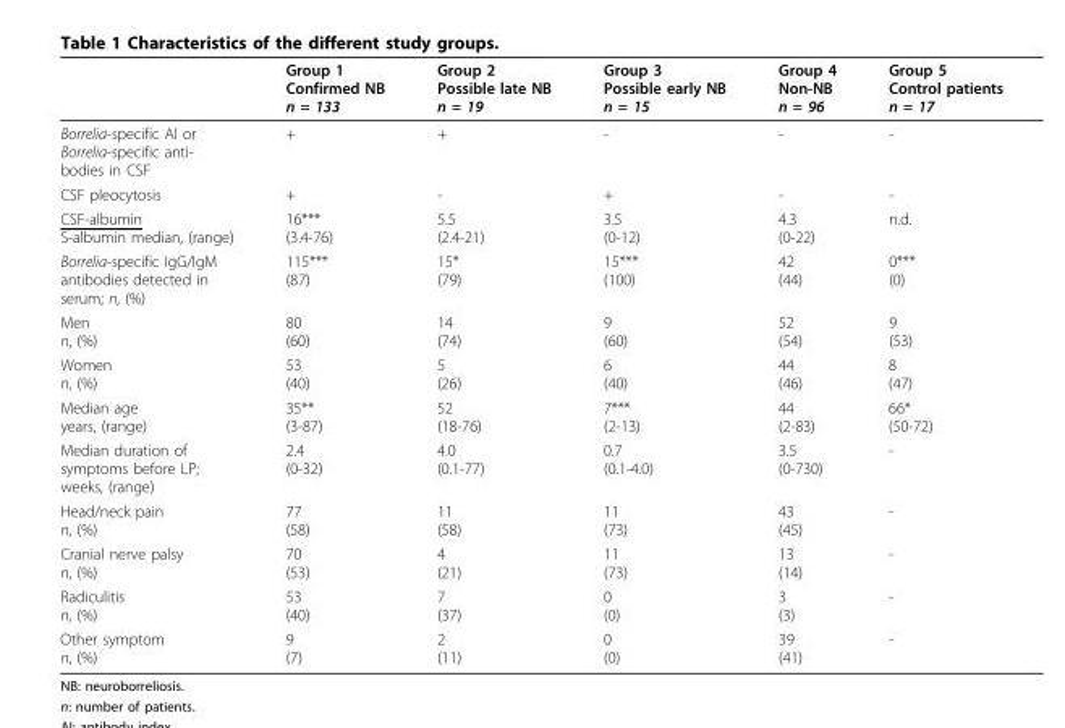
<table><thead><tr><td></td><td>Group 1 Confirmed NB n = 133</td><td>Group 2 Possible late NB n = 19</td><td>Group 3 Possible early NB n = 15</td><td>Group 4 Non-NB n = 96</td><td>Group 5 Control patients n = 17</td></tr></thead><tbody><tr><td>Borrelia-specific AI or Borrelia-specific anti- bodies in CSF</td><td>+</td><td>+</td><td>-</td><td>-</td><td>-</td></tr><tr><td>CSF pleocytosis</td><td>+</td><td>-</td><td>+</td><td>-</td><td>-</td></tr><tr><td>CSF-albumin S-albumin median, (range)</td><td>16*** (3.4-76)</td><td>5.5 (2.4-21)</td><td>3.5 (0-12)</td><td>4.3 (0-22)</td><td>n.d.</td></tr><tr><td>Borrelia-specific IgG/IgM antibodies detected in serum; n, (%)</td><td>115*** (87)</td><td>15* (79)</td><td>15*** (100)</td><td>42 (44)</td><td>0*** (0)</td></tr><tr><td>Men n, (%)</td><td>80 (60)</td><td>14 (74)</td><td>9 (60)</td><td>52 (54)</td><td>9 (53)</td></tr><tr><td>Women n, (%)</td><td>53 (40)</td><td>5 (26)</td><td>6 (40)</td><td>44 (46)</td><td>8 (47)</td></tr><tr><td>Median age years, (range)</td><td>35** (3-87)</td><td>52 (18-76)</td><td>7*** (2-13)</td><td>44 (2-83)</td><td>66* (50-72)</td></tr><tr><td>Median duration of symptoms before LP; weeks, (range)</td><td>2.4 (0-32)</td><td>4.0 (0.1-77)</td><td>0.7 (0.1-4.0)</td><td>3.5 (0-730)</td><td>-</td></tr><tr><td>Head/neck pain n, (%)</td><td>77 (58)</td><td>11 (58)</td><td>11 (73)</td><td>43 (45)</td><td>-</td></tr><tr><td>Cranial nerve palsy n, (%)</td><td>70 (53)</td><td>4 (21)</td><td>11 (73)</td><td>13 (14)</td><td>-</td></tr><tr><td>Radiculitis n, (%)</td><td>53 (40)</td><td>7 (37)</td><td>0 (0)</td><td>3 (3)</td><td>-</td></tr><tr><td>Other symptom n, (%)</td><td>9 (7)</td><td>2 (11)</td><td>0 (0)</td><td>39 (41)</td><td>-</td></tr></tbody></table>